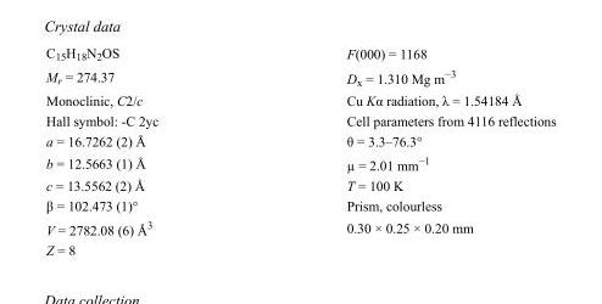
<table><tbody><tr><td>C<sub>15</sub>H<sub>18</sub>N<sub>2</sub>OS</td><td>F(000) = 1168</td></tr><tr><td>M<sub>r</sub> = 274.37</td><td>D<sub>x</sub> = 1.310 Mg m<sup>−3</sup></td></tr><tr><td>Monoclinic, C2/c</td><td>Cu Kα radiation, λ = 1.54184 Å</td></tr><tr><td>Hall symbol: -C 2yc</td><td>Cell parameters from 4116 reflections</td></tr><tr><td>a = 16.7262 (2) Å</td><td>θ = 3.3–76.3°</td></tr><tr><td>b = 12.5663 (1) Å</td><td>µ = 2.01 mm<sup>−1</sup></td></tr><tr><td>c = 13.5562 (2) Å</td><td>T = 100 K</td></tr><tr><td>β = 102.473 (1)°</td><td>Prism, colourless</td></tr><tr><td>V = 2782.08 (6) Å<sup>3</sup></td><td>0.30 × 0.25 × 0.20 mm</td></tr><tr><td>Z = 8</td><td></td></tr></tbody></table>